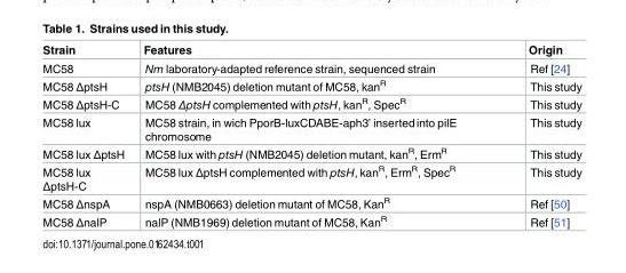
<table><thead><tr><td>Strain</td><td>Features</td><td>Origin</td></tr></thead><tbody><tr><td>MC58</td><td>Nm laboratory-adapted reference strain, sequenced strain</td><td>Ref [24]</td></tr><tr><td>MC58 ΔptsH</td><td>ptsH (NMB2045) deletion mutant of MC58, kan<sup>R</sup></td><td>This study</td></tr><tr><td>MC58 ΔptsH-C</td><td>MC58 ΔptsH complemented with ptsH, kan<sup>R</sup>, Spec<sup>R</sup></td><td>This study</td></tr><tr><td>MC58 lux</td><td>MC58 strain, in wich PporB-luxCDABE-aph3’ insertedinto pilE chromosome</td><td>This study</td></tr><tr><td>MC58 lux ΔptsH</td><td>MC58 lux with ptsH (NMB2045) deletion mutant, kan<sup>R</sup>, Erm<sup>R</sup></td><td>This study</td></tr><tr><td>MC58 lux ΔptsH-C</td><td>MC58 lux ΔptsH complemented with ptsH, kan<sup>R</sup>, Erm<sup>R</sup>, Spec<sup>R</sup></td><td>This study</td></tr><tr><td>MC58 ΔnspA</td><td>nspA (NMB0663) deletion mutant of MC58, Kan<sup>R</sup></td><td>Ref [50]</td></tr><tr><td>MC58 ΔnalP</td><td>nalP (NMB1969) deletion mutant of MC58, Kan<sup>R</sup></td><td>Ref [51]</td></tr></tbody></table>